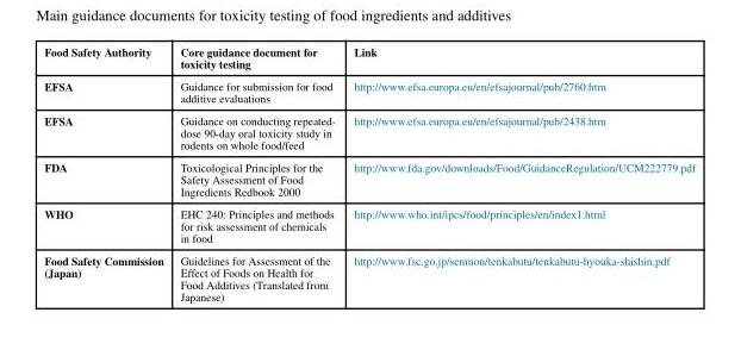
<table><thead><tr><td>Food Safety Authority</td><td>Core guidance document for toxicity testing</td><td>Link</td></tr></thead><tbody><tr><td>EFSA</td><td>Guidance for submission for food additive evaluations</td><td>http://www.efsa.europa.eu/en/efsajournal/pub/2760.htm</td></tr><tr><td>EFSA</td><td>Guidance on conducting repeated- dose 90-day oral toxicity study in rodents on whole food/feed</td><td>http://www.efsa.europa.eu/en/efsajournal/pub/2438.htm</td></tr><tr><td>FDA</td><td>Toxicological Principles for the Safety Assessment of Food Ingredients Redbook 2000</td><td>http://www.fda.gov/downloads/Food/GuidanceRegulation/UCM222779.pdf</td></tr><tr><td>WHO</td><td>EHC 240: Principles and methods for risk assessment of chemicals in food</td><td>http://www.who.int/ipcs/food/principles/en/index1.html</td></tr><tr><td>Food Safety Commission (Japan)</td><td>Guidelines for Assessment of the Effect of Foods on Health for Food Additives (Translated from Japanese)</td><td>http://www.fsc.go.jp/senmon/tenkabutu/tenkabutu-hyouka-shishin.pdf</td></tr></tbody></table>